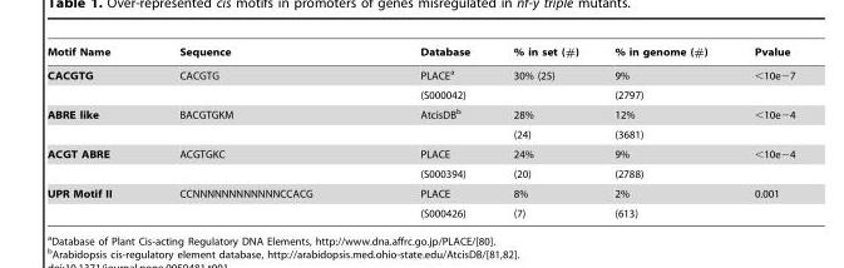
<table><thead><tr><td>Motif Name</td><td>Sequence</td><td>Database</td><td>% in set (#)</td><td>% in genome (#)</td><td>Pvalue</td></tr></thead><tbody><tr><td rowspan="2">CACGTG</td><td>CACGTG</td><td>PLACE<sup>a</sup></td><td>30% (25)</td><td>9%</td><td>&lt;10e−7</td></tr><tr><td></td><td>(S000042)</td><td></td><td>(2797)</td><td></td></tr><tr><td rowspan="2">ABRE like</td><td>BACGTGKM</td><td>AtcisDB<sup>b</sup></td><td>28%</td><td>12%</td><td>&lt;10e−4</td></tr><tr><td></td><td></td><td>(24)</td><td>(3681)</td><td></td></tr><tr><td rowspan="2">ACGT ABRE</td><td>ACGTGKC</td><td>PLACE</td><td>24%</td><td>9%</td><td>&lt;10e−4</td></tr><tr><td></td><td>(S000394)</td><td>(20)</td><td>(2788)</td><td></td></tr><tr><td rowspan="2">UPR Motif II</td><td>CCNNNNNNNNNNNNCCACG</td><td>PLACE</td><td>8%</td><td>2%</td><td>0.001</td></tr><tr><td></td><td>(S000426)</td><td>(7)</td><td>(613)</td><td></td></tr></tbody></table>